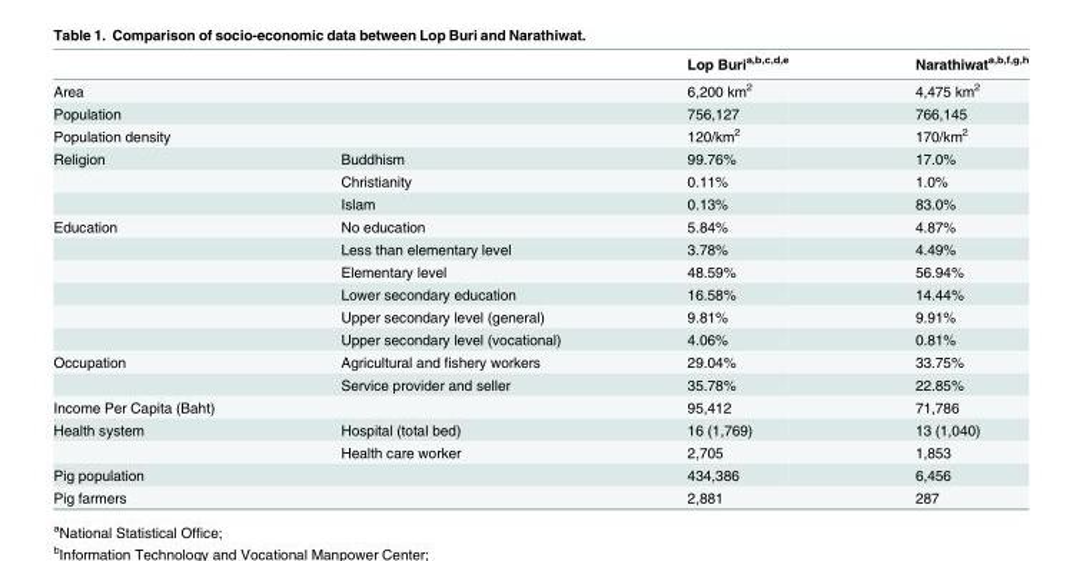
<table><thead><tr><td></td><td></td><td>Lop Buri<sup>a,b,c,d,e</sup></td><td>Narathiwat<sup>a,b,f,g,h</sup></td></tr></thead><tbody><tr><td>Area</td><td></td><td>6,200 km<sup>2</sup></td><td>4,475 km<sup>2</sup></td></tr><tr><td>Population</td><td></td><td>756,127</td><td>766,145</td></tr><tr><td>Population density</td><td></td><td>120/km<sup>2</sup></td><td>170/km<sup>2</sup></td></tr><tr><td rowspan="3">Religion</td><td>Buddhism</td><td>99.76%</td><td>17.0%</td></tr><tr><td>Christianity</td><td>0.11%</td><td>1.0%</td></tr><tr><td>Islam</td><td>0.13%</td><td>83.0%</td></tr><tr><td rowspan="6">Education</td><td>No education</td><td>5.84%</td><td>4.87%</td></tr><tr><td>Less than elementary level</td><td>3.78%</td><td>4.49%</td></tr><tr><td>Elementary level</td><td>48.59%</td><td>56.94%</td></tr><tr><td>Lower secondary education</td><td>16.58%</td><td>14.44%</td></tr><tr><td>Upper secondary level (general)</td><td>9.81%</td><td>9.91%</td></tr><tr><td>Upper secondary level (vocational)</td><td>4.06%</td><td>0.81%</td></tr><tr><td rowspan="2">Occupation</td><td>Agricultural and fishery workers</td><td>29.04%</td><td>33.75%</td></tr><tr><td>Service provider and seller</td><td>35.78%</td><td>22.85%</td></tr><tr><td>Income Per Capita (Baht)</td><td></td><td>95,412</td><td>71,786</td></tr><tr><td rowspan="2">Health system</td><td>Hospital (total bed)</td><td>16 (1,769)</td><td>13 (1,040)</td></tr><tr><td>Health care worker</td><td>2,705</td><td>1,853</td></tr><tr><td>Pig population</td><td></td><td>434,386</td><td>6,456</td></tr><tr><td>Pig farmers</td><td></td><td>2,881</td><td>287</td></tr></tbody></table>